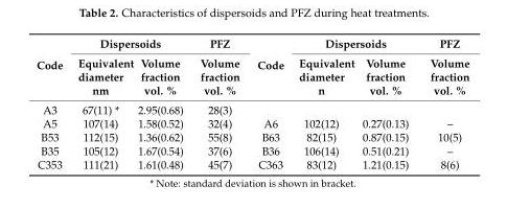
<table><thead><tr><td rowspan="2">Code</td><td colspan="2">Dispersoids</td><td rowspan="2">PFZ Volume fraction vol. %</td><td rowspan="2">Code</td><td colspan="2">Dispersoids</td><td rowspan="2">PFZ Volume fraction vol. %</td></tr><tr><td>Equivalent diameter nm</td><td>Volume fraction vol. %</td><td>Equivalent diameter n</td><td>Volume fraction vol. %</td></tr></thead><tbody><tr><td>A3</td><td>67(11) *</td><td>2.95(0.68)</td><td>28(3)</td><td></td><td></td><td></td><td></td></tr><tr><td>A5</td><td>107(14)</td><td>1.58(0.52)</td><td>32(4)</td><td>A6</td><td>102(12)</td><td>0.27(0.13)</td><td>–</td></tr><tr><td>B53</td><td>112(15)</td><td>1.36(0.62)</td><td>55(8)</td><td>B63</td><td>82(15)</td><td>0.87(0.15)</td><td>10(5)</td></tr><tr><td>B35</td><td>105(12)</td><td>1.67(0.54)</td><td>37(6)</td><td>B36</td><td>106(14)</td><td>0.51(0.21)</td><td>–</td></tr><tr><td>C353</td><td>111(21)</td><td>1.61(0.48)</td><td>45(7)</td><td>C363</td><td>83(12)</td><td>1.21(0.15)</td><td>8(6)</td></tr></tbody></table>